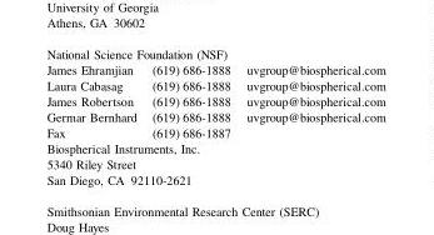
<table><tbody><tr><td colspan="3">National Science Foundation (NSF)</td></tr><tr><td>James Ehramjian</td><td>(619) 686-1888</td><td>uvgroup@biospherical.com</td></tr><tr><td>Laura Cabasag</td><td>(619) 686-1888</td><td>uvgroup@biospherical.com</td></tr><tr><td>James Robertson</td><td>(619) 686-1888</td><td>uvgroup@biospherical.com</td></tr><tr><td>Germar Bernhard</td><td>(619) 686-1888</td><td>uvgroup@biospherical.com</td></tr><tr><td>Fax</td><td>(619) 686-1887</td><td></td></tr><tr><td colspan="3">Biospherical Instruments, Inc.</td></tr><tr><td colspan="3">5340 Riley Street</td></tr><tr><td colspan="2">San Diego, CA 92110-2621</td><td></td></tr></tbody></table>